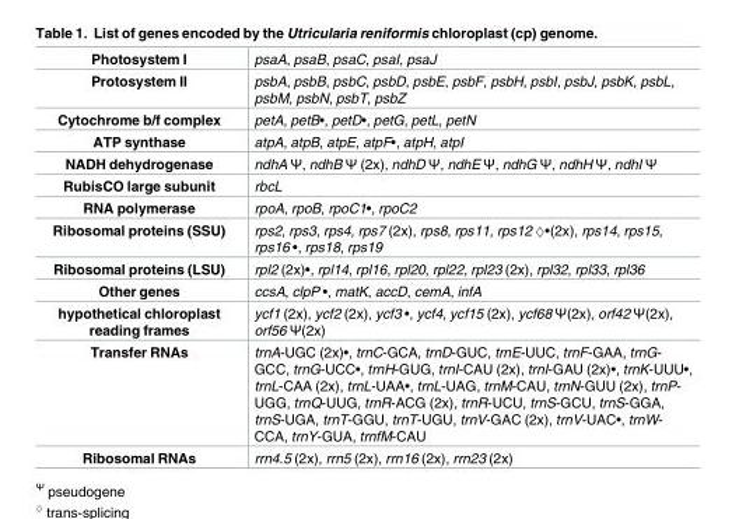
<table><tbody><tr><td>Photosystem I</td><td>psaA, psaB, psaC, psaI, psaJ</td></tr><tr><td>Protosystem II</td><td>psbA, psbB, psbC, psbD, psbE, psbF, psbH, psbI, psbJ, psbK, psbL, psbM, psbN, psbT, psbZ</td></tr><tr><td>Cytochrome b/f complex</td><td>petA, petB•, petD•, petG, petL, petN</td></tr><tr><td>ATP synthase</td><td>atpA, atpB, atpE, atpF•, atpH, atpI</td></tr><tr><td>NADH dehydrogenase</td><td>ndhA Ψ, ndhB Ψ (2x), ndhD Ψ, ndhE Ψ, ndhG Ψ, ndhH Ψ, ndhI Ψ</td></tr><tr><td>RubisCO large subunit</td><td>rbcL</td></tr><tr><td>RNA polymerase</td><td>rpoA, rpoB, rpoC1•, rpoC2</td></tr><tr><td>Ribosomal proteins (SSU)</td><td>rps2, rps3, rps4, rps7 (2x), rps8, rps11, rps12 ◊•(2x), rps14, rps15, rps16 •, rps18, rps19</td></tr><tr><td>Ribosomal proteins (LSU)</td><td>rpl2 (2x)•, rpl14, rpl16, rpl20, rpl22, rpl23 (2x), rpl32, rpl33, rpl36</td></tr><tr><td>Other genes</td><td>ccsA, clpP •, matK, accD, cemA, infA</td></tr><tr><td>hypothetical chloroplast reading frames</td><td>ycf1 (2x), ycf2 (2x), ycf3 •, ycf4, ycf15 (2x), ycf68 Ψ(2x), orf42 Ψ(2x), orf56 Ψ(2x)</td></tr><tr><td>Transfer RNAs</td><td>trnA-UGC (2x)•, trnC-GCA, trnD-GUC, trnE-UUC, trnF-GAA, trnG- GCC, trnG-UCC•, trnH-GUG, trnI-CAU (2x), trnI-GAU (2x)•, trnK-UUU•, trnL-CAA (2x), trnL-UAA•, trnL-UAG, trnM-CAU, trnN-GUU (2x), trnP- UGG, trnQ-UUG, trnR-ACG (2x), trnR-UCU, trnS-GCU, trnS-GGA, trnS-UGA, trnT-GGU, trnT-UGU, trnV-GAC (2x), trnV-UAC•, trnW- CCA, trnY-GUA, trnfM-CAU</td></tr><tr><td>Ribosomal RNAs</td><td>rrn4.5 (2x), rrn5 (2x), rrn16 (2x), rrn23 (2x)</td></tr></tbody></table>